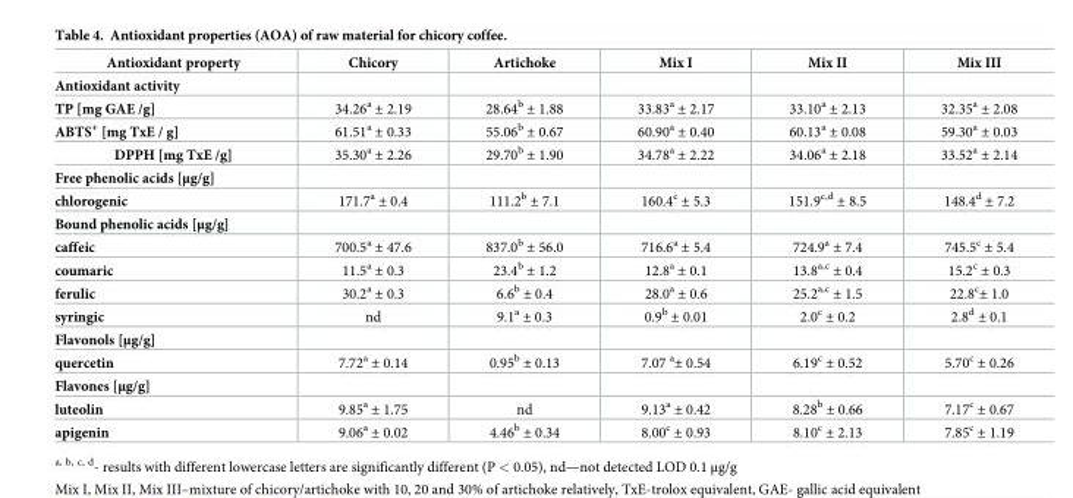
<table><thead><tr><td>Antioxidant property</td><td>Chicory</td><td>Artichoke</td><td>Mix I</td><td>Mix II</td><td>Mix III</td></tr></thead><tbody><tr><td colspan="6">Antioxidant activity</td></tr><tr><td>TP [mg GAE /g]</td><td>34.26<sup>a</sup> ± 2.19</td><td>28.64<sup>b</sup> ± 1.88</td><td>33.83<sup>a</sup> ± 2.17</td><td>33.10<sup>a</sup> ± 2.13</td><td>32.35<sup>a</sup> ± 2.08</td></tr><tr><td>ABTS<sup>+</sup> [mg TxE / g]</td><td>61.51<sup>a</sup> ± 0.33</td><td>55.06<sup>b</sup> ± 0.67</td><td>60.90<sup>a</sup> ± 0.40</td><td>60.13<sup>a</sup> ± 0.08</td><td>59.30<sup>a</sup> ± 0.03</td></tr><tr><td>DPPH [mg TxE /g]</td><td>35.30<sup>a</sup> ± 2.26</td><td>29.70<sup>b</sup> ± 1.90</td><td>34.78<sup>a</sup> ± 2.22</td><td>34.06<sup>a</sup> ± 2.18</td><td>33.52<sup>a</sup> ± 2.14</td></tr><tr><td colspan="6">Free phenolic acids [μg/g]</td></tr><tr><td>chlorogenic</td><td>171.7<sup>a</sup> ± 0.4</td><td>111.2<sup>b</sup> ± 7.1</td><td>160.4<sup>c</sup> ± 5.3</td><td>151.9<sup>c,d</sup> ± 8.5</td><td>148.4<sup>d</sup> ± 7.2</td></tr><tr><td colspan="6">Bound phenolic acids [μg/g]</td></tr><tr><td>caffeic</td><td>700.5<sup>a</sup> ± 47.6</td><td>837.0<sup>b</sup> ± 56.0</td><td>716.6<sup>a</sup> ± 5.4</td><td>724.9<sup>a</sup> ± 7.4</td><td>745.5<sup>c</sup> ± 5.4</td></tr><tr><td>coumaric</td><td>11.5<sup>a</sup> ± 0.3</td><td>23.4<sup>b</sup> ± 1.2</td><td>12.8<sup>a</sup> ± 0.1</td><td>13.8<sup>a,c</sup> ± 0.4</td><td>15.2<sup>c</sup> ± 0.3</td></tr><tr><td>ferulic</td><td>30.2<sup>a</sup> ± 0.3</td><td>6.6<sup>b</sup> ± 0.4</td><td>28.0<sup>a</sup> ± 0.6</td><td>25.2<sup>a,c</sup> ± 1.5</td><td>22.8<sup>c</sup>± 1.0</td></tr><tr><td>syringic</td><td>nd</td><td>9.1<sup>a</sup> ± 0.3</td><td>0.9<sup>b</sup> ± 0.01</td><td>2.0<sup>c</sup> ± 0.2</td><td>2.8<sup>d</sup> ± 0.1</td></tr><tr><td colspan="6">Flavonols [μg/g]</td></tr><tr><td>quercetin</td><td>7.72<sup>a</sup> ± 0.14</td><td>0.95<sup>b</sup> ± 0.13</td><td>7.07 <sup>a</sup>± 0.54</td><td>6.19<sup>c</sup> ± 0.52</td><td>5.70<sup>c</sup> ± 0.26</td></tr><tr><td colspan="6">Flavones [μg/g]</td></tr><tr><td>luteolin</td><td>9.85<sup>a</sup> ± 1.75</td><td>nd</td><td>9.13<sup>a</sup> ± 0.42</td><td>8.28<sup>b</sup> ± 0.66</td><td>7.17<sup>c</sup> ± 0.67</td></tr><tr><td>apigenin</td><td>9.06<sup>a</sup> ± 0.02</td><td>4.46<sup>b</sup> ± 0.34</td><td>8.00<sup>c</sup> ± 0.93</td><td>8.10<sup>c</sup> ± 2.13</td><td>7.85<sup>c</sup> ± 1.19</td></tr></tbody></table>